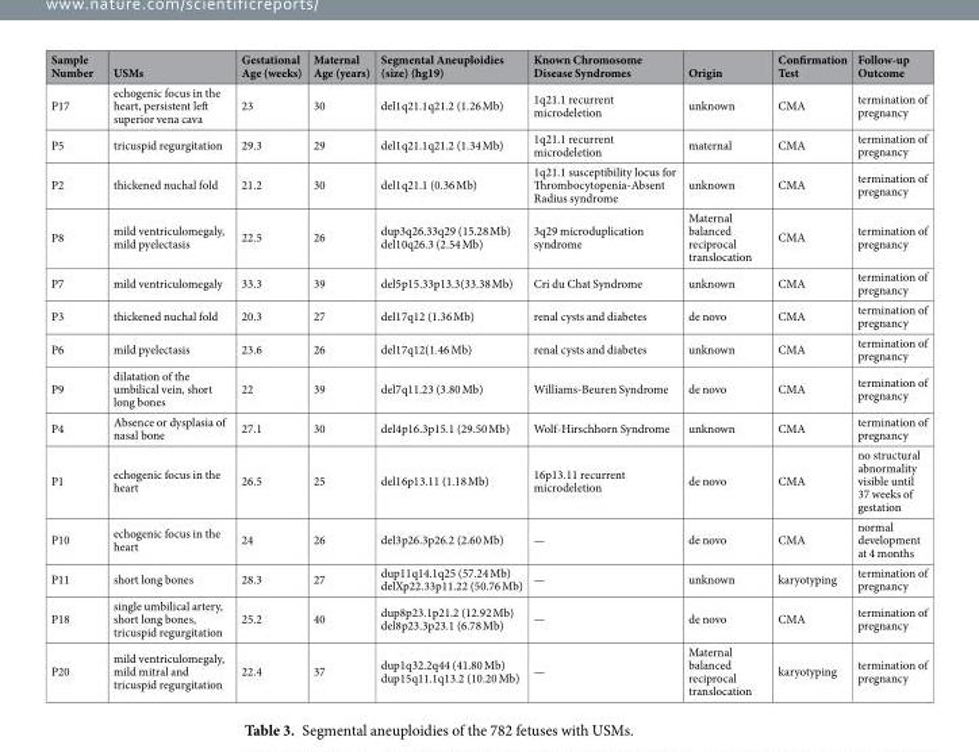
<table><thead><tr><td>Sample Number</td><td>USMs</td><td>Gestational Age (weeks)</td><td>Maternal Age (years)</td><td>Segmental Aneuploidies (size) (hg19)</td><td>Known Chromosome Disease Syndromes</td><td>Origin</td><td>Confirmation Test</td><td>Follow-up Outcome</td></tr></thead><tbody><tr><td>P17</td><td>echogenic focus in the heart, persistent left superior vena cava</td><td>23</td><td>30</td><td>del1q21.1q21.2 (1.26 Mb)</td><td>1q21.1 recurrent microdeletion</td><td>unknown</td><td>CMA</td><td>termination of pregnancy</td></tr><tr><td>P5</td><td>tricuspid regurgitation</td><td>29.3</td><td>29</td><td>del1q21.1q21.2 (1.34 Mb)</td><td>1q21.1 recurrent microdeletion</td><td>maternal</td><td>CMA</td><td>termination of pregnancy</td></tr><tr><td>P2</td><td>thickened nuchal fold</td><td>21.2</td><td>30</td><td>del1q21.1 (0.36 Mb)</td><td>1q21.1 susceptibility locus for Thrombocytopenia-Absent Radius syndrome</td><td>unknown</td><td>CMA</td><td>termination of pregnancy</td></tr><tr><td>P8</td><td>mild ventriculomegaly, mild pyelectasis</td><td>22.5</td><td>26</td><td>dup3q26.33q29 (15.28 Mb) del10q26.3 (2.54 Mb)</td><td>3q29 microduplication syndrome</td><td>Maternal balanced reciprocal translocation</td><td>CMA</td><td>termination of pregnancy</td></tr><tr><td>P7</td><td>mild ventriculomegaly</td><td>33.3</td><td>39</td><td>del5p15.33p13.3(33.38 Mb)</td><td>Cri du Chat Syndrome</td><td>unknown</td><td>CMA</td><td>termination of pregnancy</td></tr><tr><td>P3</td><td>thickened nuchal fold</td><td>20.3</td><td>27</td><td>del17q12 (1.36 Mb)</td><td>renal cysts and diabetes</td><td>de novo</td><td>CMA</td><td>termination of pregnancy</td></tr><tr><td>P6</td><td>mild pyelectasis</td><td>23.6</td><td>26</td><td>del17q12(1.46 Mb)</td><td>renal cysts and diabetes</td><td>unknown</td><td>CMA</td><td>termination of pregnancy</td></tr><tr><td>P9</td><td>dilatation of the umbilical vein, short long bones</td><td>22</td><td>39</td><td>del7q11.23 (3.80 Mb)</td><td>Williams-Beuren Syndrome</td><td>de novo</td><td>CMA</td><td>termination of pregnancy</td></tr><tr><td>P4</td><td>Absence or dysplasia of nasal bone</td><td>27.1</td><td>30</td><td>del4p16.3p15.1 (29.50 Mb)</td><td>Wolf-Hirschhorn Syndrome</td><td>unknown</td><td>CMA</td><td>termination of pregnancy</td></tr><tr><td>P1</td><td>echogenic focus in the heart</td><td>26.5</td><td>25</td><td>del16p13.11 (1.18 Mb)</td><td>16p13.11 recurrent microdeletion</td><td>de novo</td><td>CMA</td><td>no structural abnormality visible until 37 weeks of gestation</td></tr><tr><td>P10</td><td>echogenic focus in the heart</td><td>24</td><td>26</td><td>del3p26.3p26.2 (2.60 Mb)</td><td>—</td><td>de novo</td><td>CMA</td><td>normal development at 4 months</td></tr><tr><td>P11</td><td>short long bones</td><td>28.3</td><td>27</td><td>dup11q14.1q25 (57.24 Mb) delXp22.33p11.22 (50.76 Mb)</td><td>—</td><td>unknown</td><td>karyotyping</td><td>termination of pregnancy</td></tr><tr><td>P18</td><td>single umbilical artery, short long bones, tricuspid regurgitation</td><td>25.2</td><td>40</td><td>dup8p23.1p21.2 (12.92 Mb) del8p23.3p23.1 (6.78 Mb)</td><td>—</td><td>de novo</td><td>CMA</td><td>termination of pregnancy</td></tr><tr><td>P20</td><td>mild ventriculomegaly, mild mitral and tricuspid regurgitation</td><td>22.4</td><td>37</td><td>dup1q32.2q44 (41.80 Mb) dup15q11.1q13.2 (10.20 Mb)</td><td>—</td><td>Maternal balanced reciprocal translocation</td><td>karyotyping</td><td>termination of pregnancy</td></tr></tbody></table>